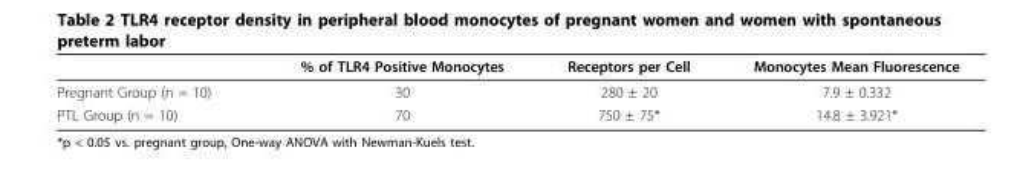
<table><thead><tr><td></td><td>% of TLR4 Positive Monocytes</td><td>Receptors per Cell</td><td>Monocytes Mean Fluorescence</td></tr></thead><tbody><tr><td>Pregnant Group (n = 10)</td><td>30</td><td>280 ± 20</td><td>7.9 ± 0.332</td></tr><tr><td>PTL Group (n = 10)</td><td>70</td><td>750 ± 75*</td><td>14.8 ± 3.921*</td></tr></tbody></table>